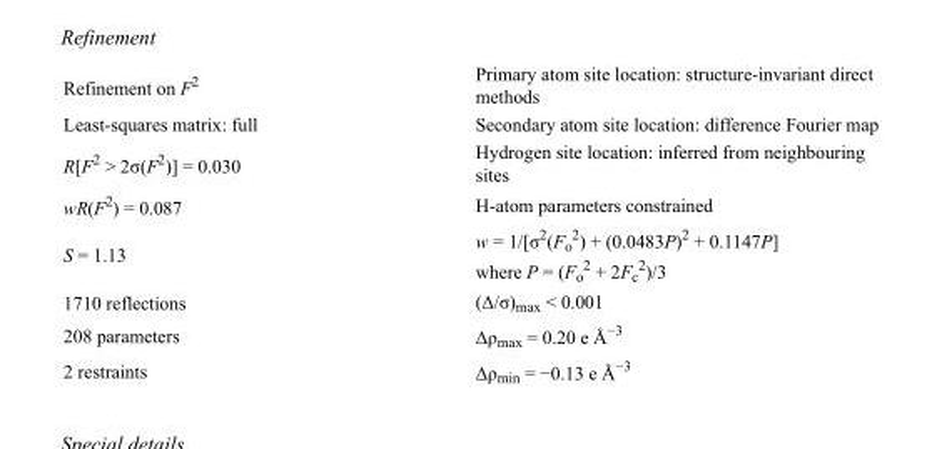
<table><tbody><tr><td>Refinement on F<sup>2</sup></td><td>Primary atom site location: structure-invariant direct methods</td></tr><tr><td>Least-squares matrix: full</td><td>Secondary atom site location: difference Fourier map</td></tr><tr><td>R[F<sup>2</sup> &gt; 2σ(F<sup>2</sup>)] = 0.030</td><td>Hydrogen site location: inferred from neighbouring sites</td></tr><tr><td>wR(F<sup>2</sup>) = 0.087</td><td>H-atom parameters constrained</td></tr><tr><td>S = 1.13</td><td>w = 1/[σ<sup>2</sup>(F<sub>o</sub> <sup>2</sup>) + (0.0483P)<sup>2</sup> + 0.1147P] where P = (F<sub>o</sub> <sup>2</sup> + 2F<sub>c</sub> <sup>2</sup>)/3</td></tr><tr><td>1710 reflections</td><td>(Δ/σ)<sub>max</sub> &lt; 0.001</td></tr><tr><td>208 parameters</td><td>Δρ<sub>max</sub> = 0.20 e Å<sup>−3</sup></td></tr><tr><td>2 restraints</td><td>Δρ<sub>min</sub> = −0.13 e Å<sup>−3</sup></td></tr></tbody></table>